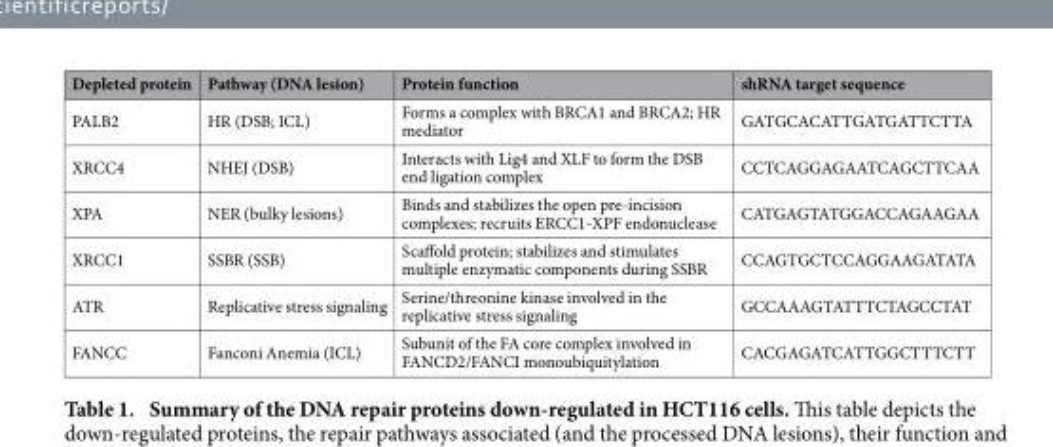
<table><thead><tr><td>Depleted protein</td><td>Pathway (DNA lesion)</td><td>Protein function</td><td>shRNA target sequence</td></tr></thead><tbody><tr><td>PALB2</td><td>HR (DSB; ICL)</td><td>Forms a complex with BRCA1 and BRCA2; HR mediator</td><td>GATGCACATTGATGATTCTTA</td></tr><tr><td>XRCC4</td><td>NHEJ (DSB)</td><td>Interacts with Lig4 and XLF to form the DSB end ligation complex</td><td>CCTCAGGAGAATCAGCTTCAA</td></tr><tr><td>XPA</td><td>NER (bulky lesions)</td><td>Binds and stabilizes the open pre-incision complexes; recruits ERCC1-XPF endonuclease</td><td>CATGAGTATGGACCAGAAGAA</td></tr><tr><td>XRCC1</td><td>SSBR (SSB)</td><td>Scaffold protein; stabilizes and stimulates multiple enzymatic components during SSBR</td><td>CCAGTGCTCCAGGAAGATATA</td></tr><tr><td>ATR</td><td>Replicative stress signaling</td><td>Serine/threonine kinase involved in the replicative stress signaling</td><td>GCCAAAGTATTTCTAGCCTAT</td></tr><tr><td>FANCC</td><td>Fanconi Anemia (ICL)</td><td>Subunit of the FA core complex involved in FANCD2/FANCI monoubiquitylation</td><td>CACGAGATCATTGGCTTTCTT</td></tr></tbody></table>